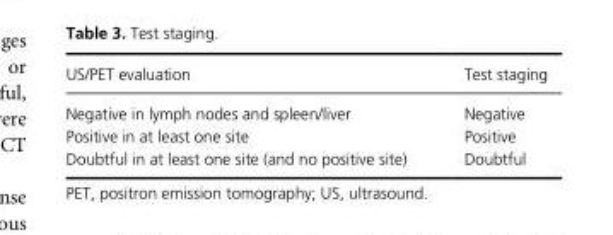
<table><thead><tr><td>US/PET evaluation</td><td>Test staging</td></tr></thead><tbody><tr><td>Negative in lymph nodes and spleen/liver</td><td>Negative</td></tr><tr><td>Positive in at least one site</td><td>Positive</td></tr><tr><td>Doubtful in at least one site (and no positive site)</td><td>Doubtful</td></tr></tbody></table>